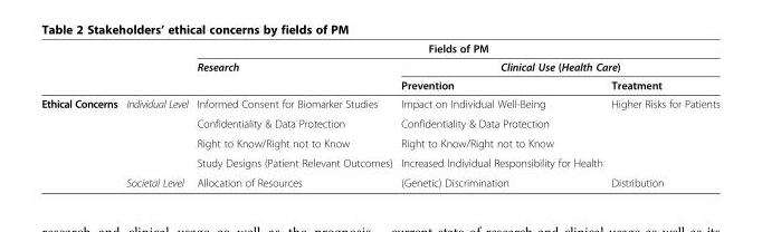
<table><thead><tr><td rowspan="3"></td><td rowspan="3"></td><td colspan="3">Fields of PM</td></tr><tr><td rowspan="2">Research</td><td colspan="2">Clinical Use (Health Care)</td></tr><tr><td>Prevention</td><td>Treatment</td></tr></thead><tbody><tr><td rowspan="5">Ethical Concerns</td><td rowspan="4">Individual Level</td><td>Informed Consent for Biomarker Studies</td><td>Impact on Individual Well-Being</td><td rowspan="4">Higher Risks for Patients</td></tr><tr><td>Confidentiality &amp; Data Protection</td><td>Confidentiality &amp; Data Protection</td></tr><tr><td>Right to Know/Right not to Know</td><td>Right to Know/Right not to Know</td></tr><tr><td>Study Designs (Patient Relevant Outcomes)</td><td>Increased Individual Responsibility for Health</td></tr><tr><td>Societal Level</td><td>Allocation of Resources</td><td>(Genetic) Discrimination</td><td>Distribution</td></tr></tbody></table>